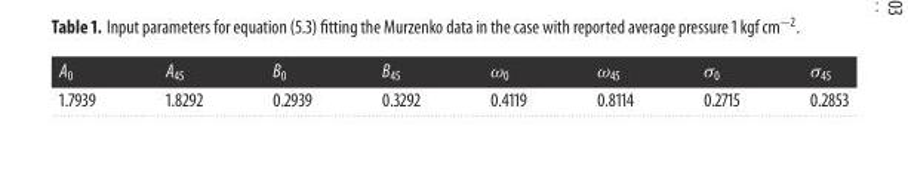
<table><thead><tr><td>A<sub>0</sub></td><td>A<sub>45</sub></td><td>B<sub>0</sub></td><td>B<sub>45</sub></td><td>ω<sub>0</sub></td><td>ω<sub>45</sub></td><td>σ<sub>0</sub></td><td>σ<sub>45</sub></td></tr></thead><tbody><tr><td>1.7939</td><td>1.8292</td><td>0.2939</td><td>0.3292</td><td>0.4119</td><td>0.8114</td><td>0.2715</td><td>0.2853</td></tr></tbody></table>